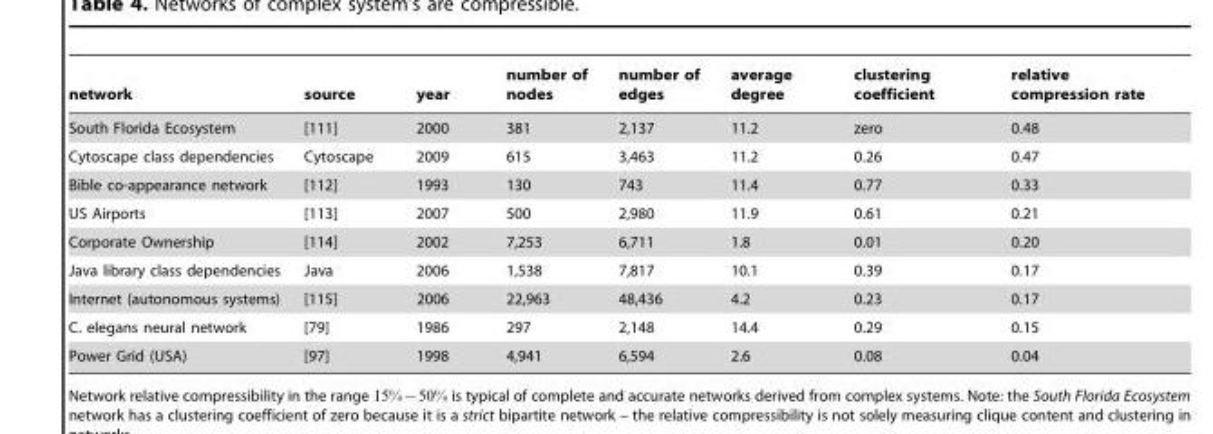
<table><thead><tr><td>network</td><td>source</td><td>year</td><td>number of nodes</td><td>number of edges</td><td>average degree</td><td>clustering coefficient</td><td>relative compression rate</td></tr></thead><tbody><tr><td>South Florida Ecosystem</td><td>[111]</td><td>2000</td><td>381</td><td>2,137</td><td>11.2</td><td>zero</td><td>0.48</td></tr><tr><td>Cytoscape class dependencies</td><td>Cytoscape</td><td>2009</td><td>615</td><td>3,463</td><td>11.2</td><td>0.26</td><td>0.47</td></tr><tr><td>Bible co-appearance network</td><td>[112]</td><td>1993</td><td>130</td><td>743</td><td>11.4</td><td>0.77</td><td>0.33</td></tr><tr><td>US Airports</td><td>[113]</td><td>2007</td><td>500</td><td>2,980</td><td>11.9</td><td>0.61</td><td>0.21</td></tr><tr><td>Corporate Ownership</td><td>[114]</td><td>2002</td><td>7,253</td><td>6,711</td><td>1.8</td><td>0.01</td><td>0.20</td></tr><tr><td>Java library class dependencies</td><td>Java</td><td>2006</td><td>1,538</td><td>7,817</td><td>10.1</td><td>0.39</td><td>0.17</td></tr><tr><td>Internet (autonomous systems)</td><td>[115]</td><td>2006</td><td>22,963</td><td>48,436</td><td>4.2</td><td>0.23</td><td>0.17</td></tr><tr><td>C. elegans neural network</td><td>[79]</td><td>1986</td><td>297</td><td>2,148</td><td>14.4</td><td>0.29</td><td>0.15</td></tr><tr><td>Power Grid (USA)</td><td>[97]</td><td>1998</td><td>4,941</td><td>6,594</td><td>2.6</td><td>0.08</td><td>0.04</td></tr></tbody></table>